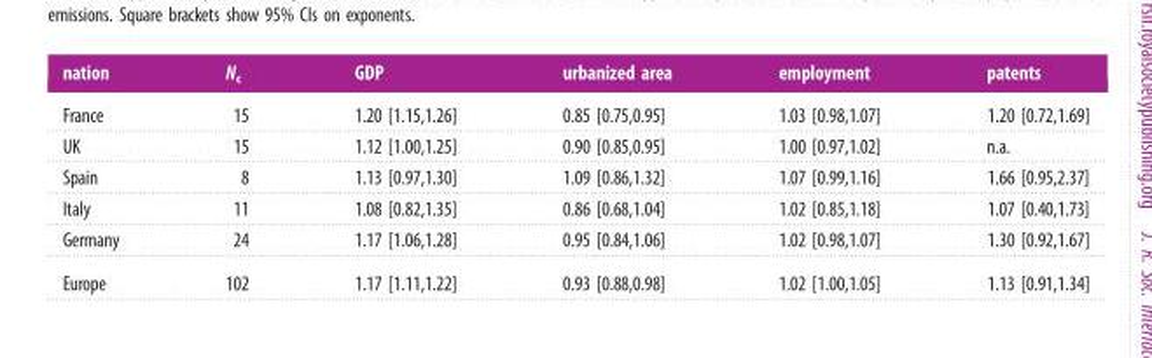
<table><thead><tr><td>nation</td><td>N<sub>c</sub></td><td>GDP</td><td>urbanized area</td><td>employment</td><td>patents</td></tr></thead><tbody><tr><td>France</td><td>15</td><td>1.20 [1.15,1.26]</td><td>0.85 [0.75,0.95]</td><td>1.03 [0.98,1.07]</td><td>1.20 [0.72,1.69]</td></tr><tr><td>UK</td><td>15</td><td>1.12 [1.00,1.25]</td><td>0.90 [0.85,0.95]</td><td>1.00 [0.97,1.02]</td><td>n.a.</td></tr><tr><td>Spain</td><td>8</td><td>1.13 [0.97,1.30]</td><td>1.09 [0.86,1.32]</td><td>1.07 [0.99,1.16]</td><td>1.66 [0.95,2.37]</td></tr><tr><td>Italy</td><td>11</td><td>1.08 [0.82,1.35]</td><td>0.86 [0.68,1.04]</td><td>1.02 [0.85,1.18]</td><td>1.07 [0.40,1.73]</td></tr><tr><td>Germany</td><td>24</td><td>1.17 [1.06,1.28]</td><td>0.95 [0.84,1.06]</td><td>1.02 [0.98,1.07]</td><td>1.30 [0.92,1.67]</td></tr><tr><td>Europe</td><td>102</td><td>1.17 [1.11,1.22]</td><td>0.93 [0.88,0.98]</td><td>1.02 [1.00,1.05]</td><td>1.13 [0.91,1.34]</td></tr></tbody></table>